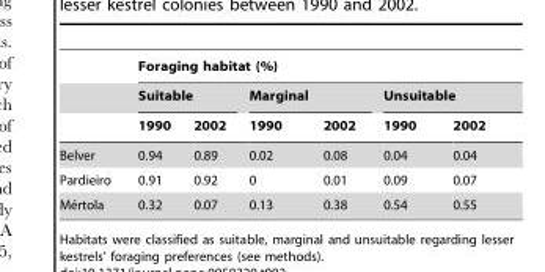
<table><thead><tr><td rowspan="3"></td><td colspan="6">Foraging habitat (%)</td></tr><tr><td colspan="2">Suitable</td><td colspan="2">Marginal</td><td colspan="2">Unsuitable</td></tr><tr><td>1990</td><td>2002</td><td>1990</td><td>2002</td><td>1990</td><td>2002</td></tr></thead><tbody><tr><td>Belver</td><td>0.94</td><td>0.89</td><td>0.02</td><td>0.08</td><td>0.04</td><td>0.04</td></tr><tr><td>Pardieiro</td><td>0.91</td><td>0.92</td><td>0</td><td>0.01</td><td>0.09</td><td>0.07</td></tr><tr><td>Me´rtola</td><td>0.32</td><td>0.07</td><td>0.13</td><td>0.38</td><td>0.54</td><td>0.55</td></tr></tbody></table>